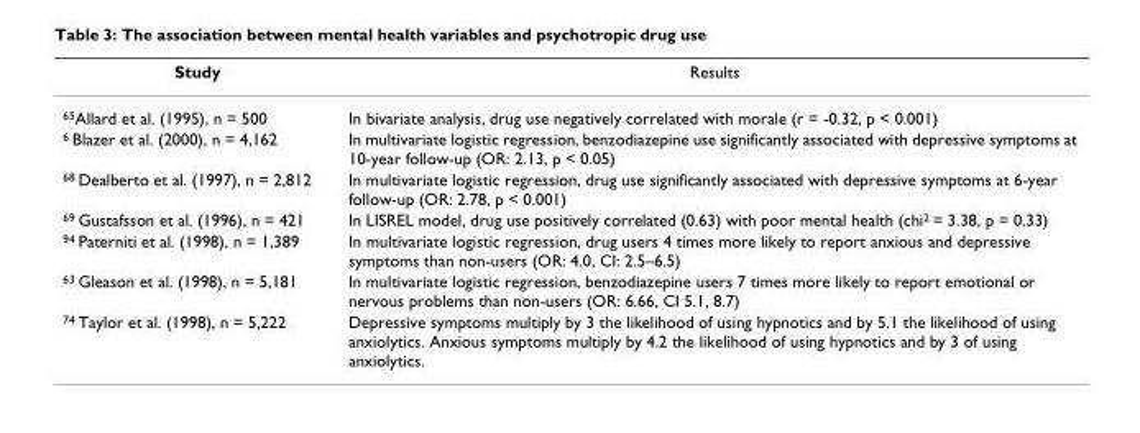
<table><thead><tr><td>Study</td><td>Results</td></tr></thead><tbody><tr><td><sup>65</sup>Allard et al. (1995), n = 500</td><td>In bivariate analysis, drug use negatively correlated with morale (r = -0.32, p &lt; 0.001)</td></tr><tr><td><sup>6</sup> Blazer et al. (2000), n = 4,162</td><td>In multivariate logistic regression, benzodiazepine use significantly associated with depressive symptoms at 10-year follow-up (OR: 2.13, p &lt; 0.05)</td></tr><tr><td><sup>68</sup> Dealberto et al. (1997), n = 2,812</td><td>In multivariate logistic regression, drug use significantly associated with depressive symptoms at 6-year follow-up (OR: 2.78, p &lt; 0.001)</td></tr><tr><td><sup>69</sup> Gustafsson et al. (1996), n = 421</td><td>In LISREL model, drug use positively correlated (0.63) with poor mental health (chi<sup>2</sup> = 3.38, p = 0.33)</td></tr><tr><td><sup>94</sup> Paterniti et al. (1998), n = 1,389</td><td>In multivariate logistic regression, drug users 4 times more likely to report anxious and depressive symptoms than non-users (OR: 4.0, CI: 2.5–6.5)</td></tr><tr><td><sup>63</sup> Gleason et al. (1998), n = 5,181</td><td>In multivariate logistic regression, benzodiazepine users 7 times more likely to report emotional or nervous problems than non-users (OR: 6.66, CI 5.1, 8.7)</td></tr><tr><td><sup>74</sup> Taylor et al. (1998), n = 5,222</td><td>Depressive symptoms multiply by 3 the likelihood of using hypnotics and by 5.1 the likelihood of using anxiolytics. Anxious symptoms multiply by 4.2 the likelihood of using hypnotics and by 3 of using anxiolytics.</td></tr></tbody></table>